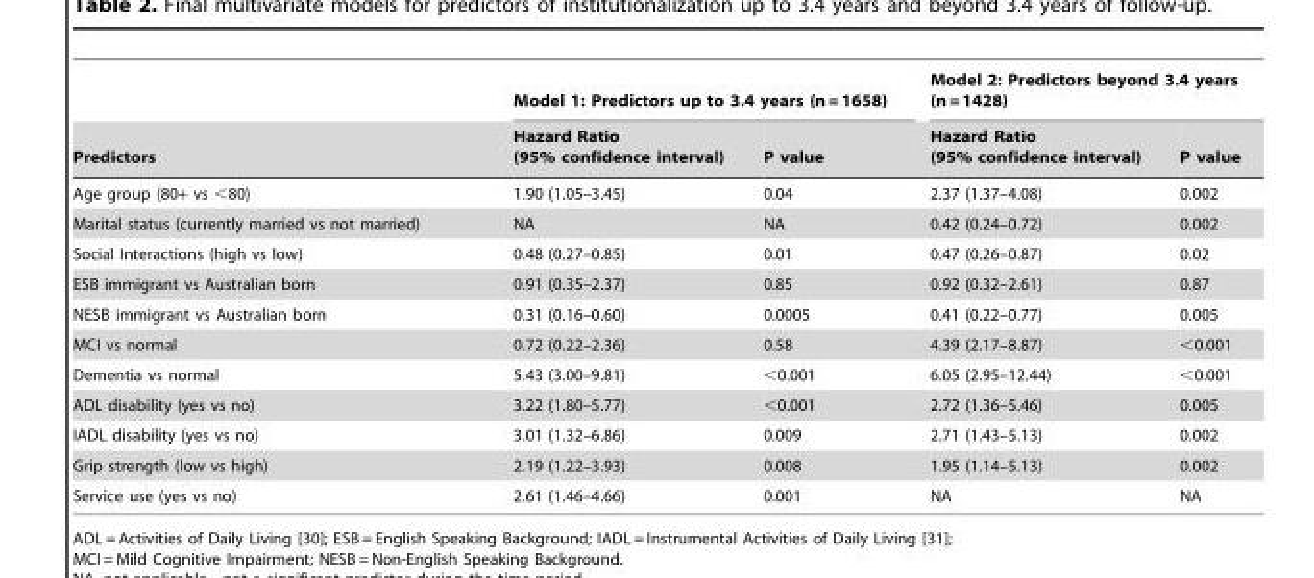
<table><thead><tr><td rowspan="2">Predictors</td><td colspan="2">Model 1: Predictors up to 3.4 years (n = 1658)</td><td colspan="2">Model 2: Predictors beyond 3.4 years (n = 1428)</td></tr><tr><td>Hazard Ratio (95% confidence interval)</td><td>P value</td><td>Hazard Ratio (95% confidence interval)</td><td>P value</td></tr></thead><tbody><tr><td>Age group (80+ vs &lt;80)</td><td>1.90 (1.05–3.45)</td><td>0.04</td><td>2.37 (1.37–4.08)</td><td>0.002</td></tr><tr><td>Marital status (currently married vs not married)</td><td>NA</td><td>NA</td><td>0.42 (0.24–0.72)</td><td>0.002</td></tr><tr><td>Social Interactions (high vs low)</td><td>0.48 (0.27–0.85)</td><td>0.01</td><td>0.47 (0.26–0.87)</td><td>0.02</td></tr><tr><td>ESB immigrant vs Australian born</td><td>0.91 (0.35–2.37)</td><td>0.85</td><td>0.92 (0.32–2.61)</td><td>0.87</td></tr><tr><td>NESB immigrant vs Australian born</td><td>0.31 (0.16–0.60)</td><td>0.0005</td><td>0.41 (0.22–0.77)</td><td>0.005</td></tr><tr><td>MCI vs normal</td><td>0.72 (0.22–2.36)</td><td>0.58</td><td>4.39 (2.17–8.87)</td><td>&lt;0.001</td></tr><tr><td>Dementia vs normal</td><td>5.43 (3.00–9.81)</td><td>&lt;0.001</td><td>6.05 (2.95–12.44)</td><td>&lt;0.001</td></tr><tr><td>ADL disability (yes vs no)</td><td>3.22 (1.80–5.77)</td><td>&lt;0.001</td><td>2.72 (1.36–5.46)</td><td>0.005</td></tr><tr><td>IADL disability (yes vs no)</td><td>3.01 (1.32–6.86)</td><td>0.009</td><td>2.71 (1.43–5.13)</td><td>0.002</td></tr><tr><td>Grip strength (low vs high)</td><td>2.19 (1.22–3.93)</td><td>0.008</td><td>1.95 (1.14–5.13)</td><td>0.002</td></tr><tr><td>Service use (yes vs no)</td><td>2.61 (1.46–4.66)</td><td>0.001</td><td>NA</td><td>NA</td></tr></tbody></table>